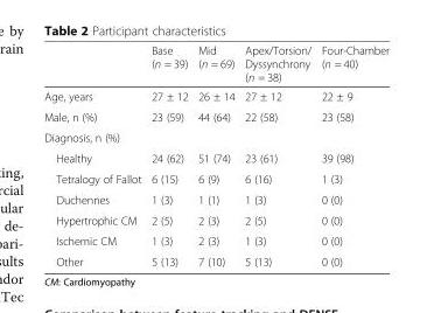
<table><thead><tr><td></td><td>Base (n = 39)</td><td>Mid (n = 69)</td><td>Apex/Torsion/ Dyssynchrony (n = 38)</td><td>Four-Chamber (n = 40)</td></tr></thead><tbody><tr><td>Age, years</td><td>27 ± 12</td><td>26 ± 14</td><td>27 ± 12</td><td>22 ± 9</td></tr><tr><td>Male, n (%)</td><td>23 (59)</td><td>44 (64)</td><td>22 (58)</td><td>23 (58)</td></tr><tr><td colspan="5">Diagnosis, n (%)</td></tr><tr><td>Healthy</td><td>24 (62)</td><td>51 (74)</td><td>23 (61)</td><td>39 (98)</td></tr><tr><td>Tetralogy of Fallot</td><td>6 (15)</td><td>6 (9)</td><td>6 (16)</td><td>1 (3)</td></tr><tr><td>Duchennes</td><td>1 (3)</td><td>1 (1)</td><td>1 (3)</td><td>0 (0)</td></tr><tr><td>Hypertrophic CM</td><td>2 (5)</td><td>2 (3)</td><td>2 (5)</td><td>0 (0)</td></tr><tr><td>Ischemic CM</td><td>1 (3)</td><td>2 (3)</td><td>1 (3)</td><td>0 (0)</td></tr><tr><td>Other</td><td>5 (13)</td><td>7 (10)</td><td>5 (13)</td><td>0 (0)</td></tr></tbody></table>